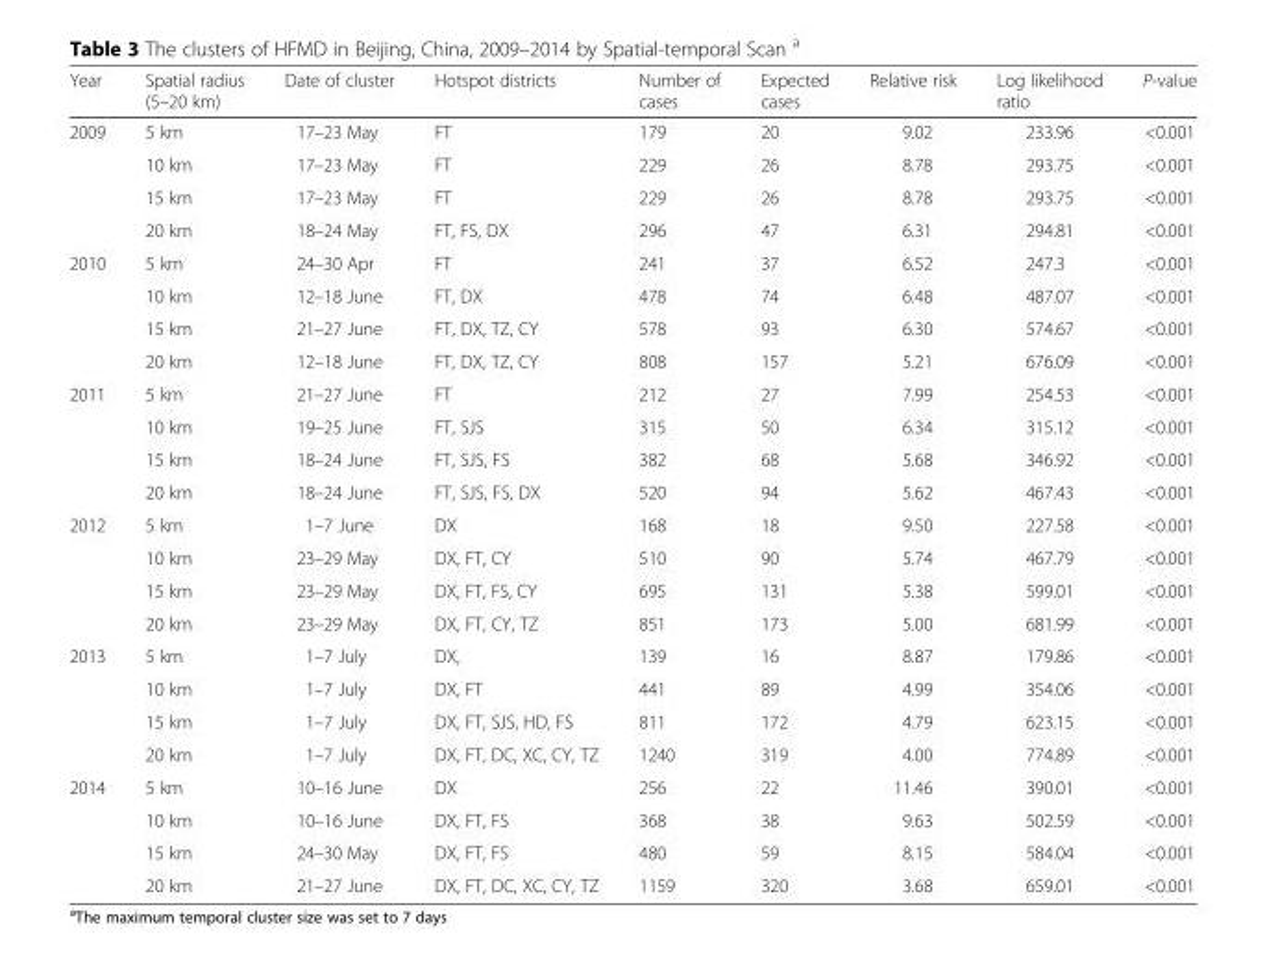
<table><thead><tr><td>Year</td><td>Spatial radius (5–20 km)</td><td>Date of cluster</td><td>Hotspot districts</td><td>Number of cases</td><td>Expected cases</td><td>Relative risk</td><td>Log likelihood ratio</td><td>P-value</td></tr></thead><tbody><tr><td rowspan="4">2009</td><td>5 km</td><td>17–23 May</td><td>FT</td><td>179</td><td>20</td><td>9.02</td><td>233.96</td><td>&lt;0.001</td></tr><tr><td>10 km</td><td>17–23 May</td><td>FT</td><td>229</td><td>26</td><td>8.78</td><td>293.75</td><td>&lt;0.001</td></tr><tr><td>15 km</td><td>17–23 May</td><td>FT</td><td>229</td><td>26</td><td>8.78</td><td>293.75</td><td>&lt;0.001</td></tr><tr><td>20 km</td><td>18–24 May</td><td>FT, FS, DX</td><td>296</td><td>47</td><td>6.31</td><td>294.81</td><td>&lt;0.001</td></tr><tr><td rowspan="4">2010</td><td>5 km</td><td>24–30 Apr</td><td>FT</td><td>241</td><td>37</td><td>6.52</td><td>247.3</td><td>&lt;0.001</td></tr><tr><td>10 km</td><td>12–18 June</td><td>FT, DX</td><td>478</td><td>74</td><td>6.48</td><td>487.07</td><td>&lt;0.001</td></tr><tr><td>15 km</td><td>21–27 June</td><td>FT, DX, TZ, CY</td><td>578</td><td>93</td><td>6.30</td><td>574.67</td><td>&lt;0.001</td></tr><tr><td>20 km</td><td>12–18 June</td><td>FT, DX, TZ, CY</td><td>808</td><td>157</td><td>5.21</td><td>676.09</td><td>&lt;0.001</td></tr><tr><td rowspan="4">2011</td><td>5 km</td><td>21–27 June</td><td>FT</td><td>212</td><td>27</td><td>7.99</td><td>254.53</td><td>&lt;0.001</td></tr><tr><td>10 km</td><td>19–25 June</td><td>FT, SJS</td><td>315</td><td>50</td><td>6.34</td><td>315.12</td><td>&lt;0.001</td></tr><tr><td>15 km</td><td>18–24 June</td><td>FT, SJS, FS</td><td>382</td><td>68</td><td>5.68</td><td>346.92</td><td>&lt;0.001</td></tr><tr><td>20 km</td><td>18–24 June</td><td>FT, SJS, FS, DX</td><td>520</td><td>94</td><td>5.62</td><td>467.43</td><td>&lt;0.001</td></tr><tr><td rowspan="4">2012</td><td>5 km</td><td>1–7 June</td><td>DX</td><td>168</td><td>18</td><td>9.50</td><td>227.58</td><td>&lt;0.001</td></tr><tr><td>10 km</td><td>23–29 May</td><td>DX, FT, CY</td><td>510</td><td>90</td><td>5.74</td><td>467.79</td><td>&lt;0.001</td></tr><tr><td>15 km</td><td>23–29 May</td><td>DX, FT, FS, CY</td><td>695</td><td>131</td><td>5.38</td><td>599.01</td><td>&lt;0.001</td></tr><tr><td>20 km</td><td>23–29 May</td><td>DX, FT, CY, TZ</td><td>851</td><td>173</td><td>5.00</td><td>681.99</td><td>&lt;0.001</td></tr><tr><td rowspan="4">2013</td><td>5 km</td><td>1–7 July</td><td>DX,</td><td>139</td><td>16</td><td>8.87</td><td>179.86</td><td>&lt;0.001</td></tr><tr><td>10 km</td><td>1–7 July</td><td>DX, FT</td><td>441</td><td>89</td><td>4.99</td><td>354.06</td><td>&lt;0.001</td></tr><tr><td>15 km</td><td>1–7 July</td><td>DX, FT, SJS, HD, FS</td><td>811</td><td>172</td><td>4.79</td><td>623.15</td><td>&lt;0.001</td></tr><tr><td>20 km</td><td>1–7 July</td><td>DX, FT, DC, XC, CY, TZ</td><td>1240</td><td>319</td><td>4.00</td><td>774.89</td><td>&lt;0.001</td></tr><tr><td rowspan="4">2014</td><td>5 km</td><td>10–16 June</td><td>DX</td><td>256</td><td>22</td><td>11.46</td><td>390.01</td><td>&lt;0.001</td></tr><tr><td>10 km</td><td>10–16 June</td><td>DX, FT, FS</td><td>368</td><td>38</td><td>9.63</td><td>502.59</td><td>&lt;0.001</td></tr><tr><td>15 km</td><td>24–30 May</td><td>DX, FT, FS</td><td>480</td><td>59</td><td>8.15</td><td>584.04</td><td>&lt;0.001</td></tr><tr><td>20 km</td><td>21–27 June</td><td>DX, FT, DC, XC, CY, TZ</td><td>1159</td><td>320</td><td>3.68</td><td>659.01</td><td>&lt;0.001</td></tr></tbody></table>